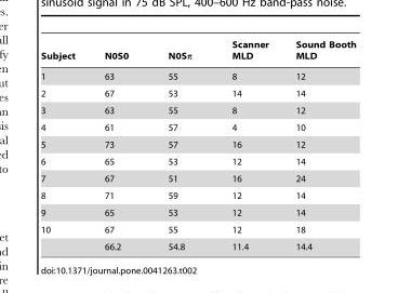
<table><thead><tr><td>Subject</td><td>N0S0</td><td>N0Sπ</td><td>Scanner MLD</td><td>Sound Booth MLD</td></tr></thead><tbody><tr><td>1</td><td>63</td><td>55</td><td>8</td><td>12</td></tr><tr><td>2</td><td>67</td><td>53</td><td>14</td><td>14</td></tr><tr><td>3</td><td>63</td><td>55</td><td>8</td><td>12</td></tr><tr><td>4</td><td>61</td><td>57</td><td>4</td><td>10</td></tr><tr><td>5</td><td>73</td><td>57</td><td>16</td><td>12</td></tr><tr><td>6</td><td>65</td><td>53</td><td>12</td><td>14</td></tr><tr><td>7</td><td>67</td><td>51</td><td>16</td><td>24</td></tr><tr><td>8</td><td>71</td><td>59</td><td>12</td><td>14</td></tr><tr><td>9</td><td>65</td><td>53</td><td>12</td><td>14</td></tr><tr><td rowspan="2">10</td><td>67</td><td>55</td><td>12</td><td>18</td></tr><tr><td>66.2</td><td>54.8</td><td>11.4</td><td>14.4</td></tr></tbody></table>